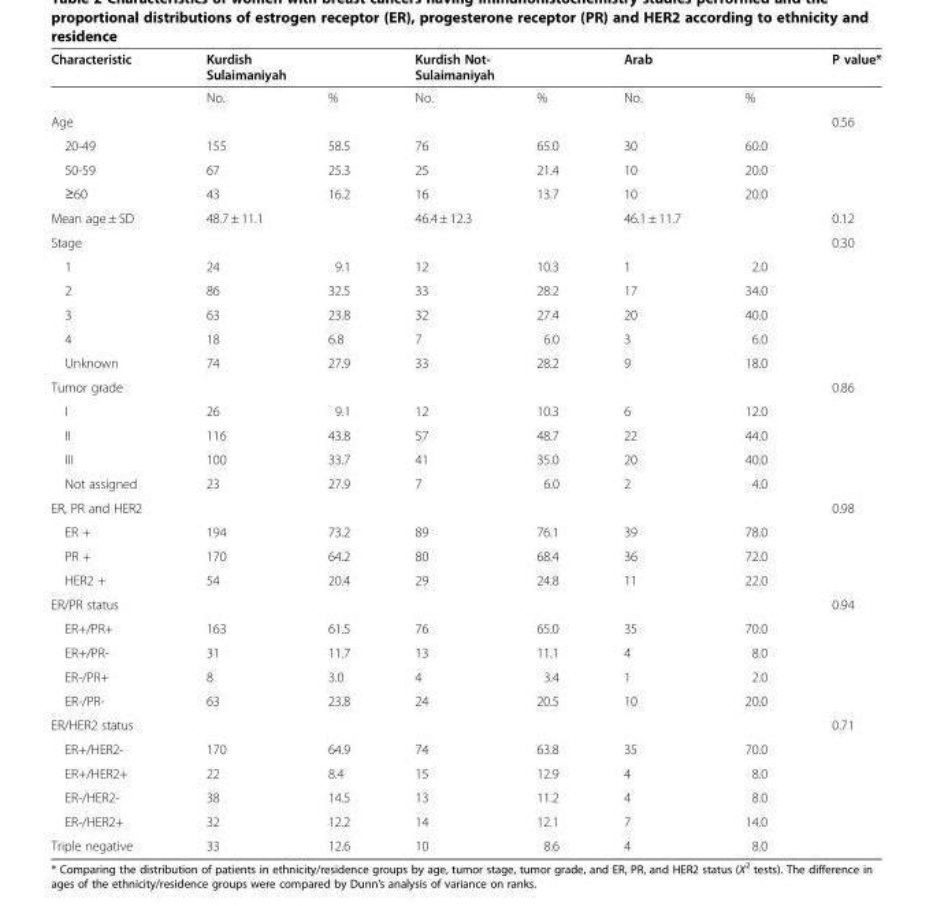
<table><thead><tr><td rowspan="2">Characteristic</td><td colspan="2">Kurdish Sulaimaniyah</td><td colspan="2">Kurdish Not- Sulaimaniyah</td><td colspan="2">Arab</td><td rowspan="2">P value*</td></tr><tr><td>No.</td><td>%</td><td>No.</td><td>%</td><td>No.</td><td>%</td></tr></thead><tbody><tr><td>Age</td><td></td><td></td><td></td><td></td><td></td><td></td><td>0.56</td></tr><tr><td>20-49</td><td>155</td><td>58.5</td><td>76</td><td>65.0</td><td>30</td><td>60.0</td><td></td></tr><tr><td>50-59</td><td>67</td><td>25.3</td><td>25</td><td>21.4</td><td>10</td><td>20.0</td><td></td></tr><tr><td>≥60</td><td>43</td><td>16.2</td><td>16</td><td>13.7</td><td>10</td><td>20.0</td><td></td></tr><tr><td>Mean age ± SD</td><td>48.7 ± 11.1</td><td></td><td>46.4 ± 12.3</td><td></td><td>46.1 ± 11.7</td><td></td><td>0.12</td></tr><tr><td>Stage</td><td></td><td></td><td></td><td></td><td></td><td></td><td>0.30</td></tr><tr><td>1</td><td>24</td><td>9.1</td><td>12</td><td>10.3</td><td>1</td><td>2.0</td><td></td></tr><tr><td>2</td><td>86</td><td>32.5</td><td>33</td><td>28.2</td><td>17</td><td>34.0</td><td></td></tr><tr><td>3</td><td>63</td><td>23.8</td><td>32</td><td>27.4</td><td>20</td><td>40.0</td><td></td></tr><tr><td>4</td><td>18</td><td>6.8</td><td>7</td><td>6.0</td><td>3</td><td>6.0</td><td></td></tr><tr><td>Unknown</td><td>74</td><td>27.9</td><td>33</td><td>28.2</td><td>9</td><td>18.0</td><td></td></tr><tr><td>Tumor grade</td><td></td><td></td><td></td><td></td><td></td><td></td><td>0.86</td></tr><tr><td>I</td><td>26</td><td>9.1</td><td>12</td><td>10.3</td><td>6</td><td>12.0</td><td></td></tr><tr><td>II</td><td>116</td><td>43.8</td><td>57</td><td>48.7</td><td>22</td><td>44.0</td><td></td></tr><tr><td>III</td><td>100</td><td>33.7</td><td>41</td><td>35.0</td><td>20</td><td>40.0</td><td></td></tr><tr><td>Not assigned</td><td>23</td><td>27.9</td><td>7</td><td>6.0</td><td>2</td><td>4.0</td><td></td></tr><tr><td>ER, PR and HER2</td><td></td><td></td><td></td><td></td><td></td><td></td><td>0.98</td></tr><tr><td>ER +</td><td>194</td><td>73.2</td><td>89</td><td>76.1</td><td>39</td><td>78.0</td><td></td></tr><tr><td>PR +</td><td>170</td><td>64.2</td><td>80</td><td>68.4</td><td>36</td><td>72.0</td><td></td></tr><tr><td>HER2 +</td><td>54</td><td>20.4</td><td>29</td><td>24.8</td><td>11</td><td>22.0</td><td></td></tr><tr><td>ER/PR status</td><td></td><td></td><td></td><td></td><td></td><td></td><td>0.94</td></tr><tr><td>ER+/PR+</td><td>163</td><td>61.5</td><td>76</td><td>65.0</td><td>35</td><td>70.0</td><td></td></tr><tr><td>ER+/PR-</td><td>31</td><td>11.7</td><td>13</td><td>11.1</td><td>4</td><td>8.0</td><td></td></tr><tr><td>ER-/PR+</td><td>8</td><td>3.0</td><td>4</td><td>3.4</td><td>1</td><td>2.0</td><td></td></tr><tr><td>ER-/PR-</td><td>63</td><td>23.8</td><td>24</td><td>20.5</td><td>10</td><td>20.0</td><td></td></tr><tr><td>ER/HER2 status</td><td></td><td></td><td></td><td></td><td></td><td></td><td>0.71</td></tr><tr><td>ER+/HER2-</td><td>170</td><td>64.9</td><td>74</td><td>63.8</td><td>35</td><td>70.0</td><td></td></tr><tr><td>ER+/HER2+</td><td>22</td><td>8.4</td><td>15</td><td>12.9</td><td>4</td><td>8.0</td><td></td></tr><tr><td>ER-/HER2-</td><td>38</td><td>14.5</td><td>13</td><td>11.2</td><td>4</td><td>8.0</td><td></td></tr><tr><td>ER-/HER2+</td><td>32</td><td>12.2</td><td>14</td><td>12.1</td><td>7</td><td>14.0</td><td></td></tr><tr><td>Triple negative</td><td>33</td><td>12.6</td><td>10</td><td>8.6</td><td>4</td><td>8.0</td><td></td></tr></tbody></table>